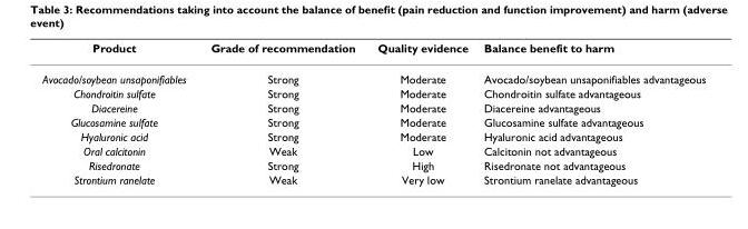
<table><thead><tr><td>Product</td><td>Grade of recommendation</td><td>Quality evidence</td><td>Balance benefit to harm</td></tr></thead><tbody><tr><td>Avocado/soybean unsaponifiables</td><td>Strong</td><td>Moderate</td><td>Avocado/soybean unsaponifiables advantageous</td></tr><tr><td>Chondroitin sulfate</td><td>Strong</td><td>Moderate</td><td>Chondroitin sulfate advantageous</td></tr><tr><td>Diacereine</td><td>Strong</td><td>Moderate</td><td>Diacereine advantageous</td></tr><tr><td>Glucosamine sulfate</td><td>Strong</td><td>Moderate</td><td>Glucosamine sulfate advantageous</td></tr><tr><td>Hyaluronic acid</td><td>Strong</td><td>Moderate</td><td>Hyaluronic acid advantageous</td></tr><tr><td>Oral calcitonin</td><td>Weak</td><td>Low</td><td>Calcitonin not advantageous</td></tr><tr><td>Risedronate</td><td>Strong</td><td>High</td><td>Risedronate not advantageous</td></tr><tr><td>Strontium ranelate</td><td>Weak</td><td>Very low</td><td>Strontium ranelate advantageous</td></tr></tbody></table>